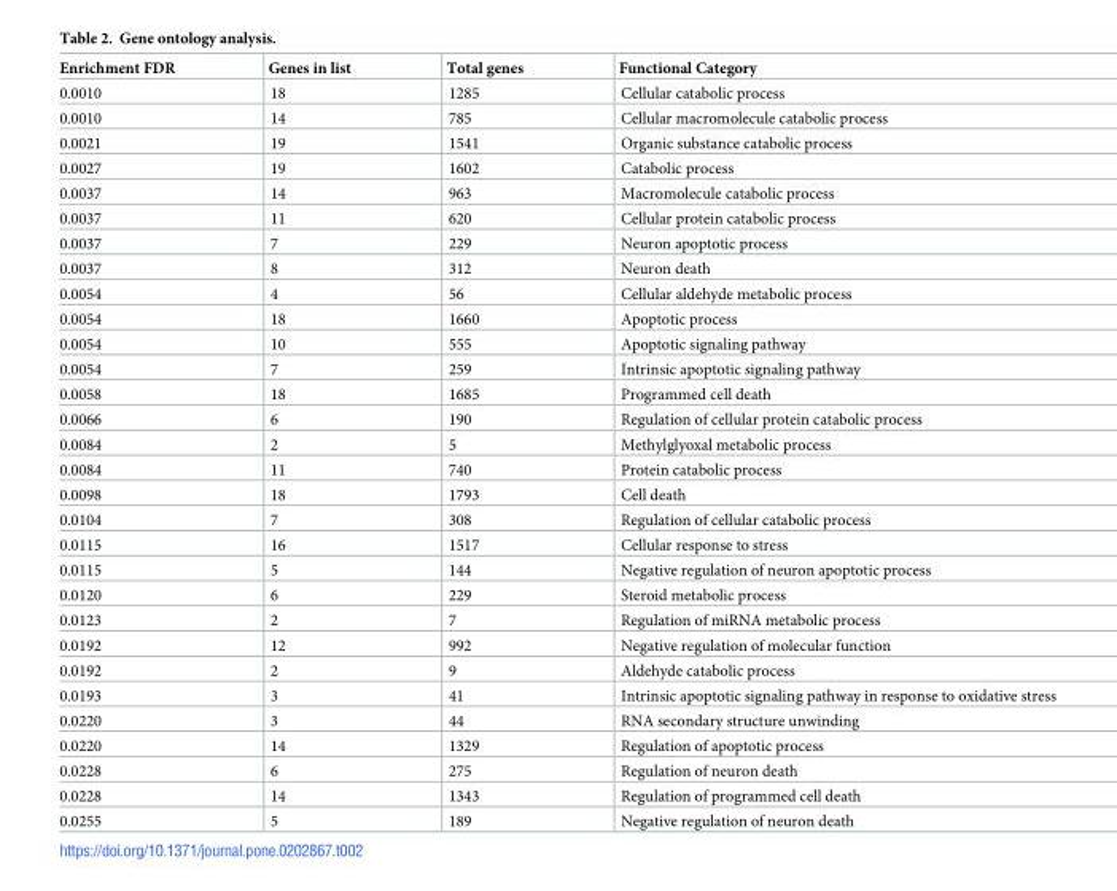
<table><thead><tr><td>Enrichment FDR</td><td>Genes in list</td><td>Total genes</td><td>Functional Category</td></tr></thead><tbody><tr><td>0.0010</td><td>18</td><td>1285</td><td>Cellular catabolic process</td></tr><tr><td>0.0010</td><td>14</td><td>785</td><td>Cellular macromolecule catabolic process</td></tr><tr><td>0.0021</td><td>19</td><td>1541</td><td>Organic substance catabolic process</td></tr><tr><td>0.0027</td><td>19</td><td>1602</td><td>Catabolic process</td></tr><tr><td>0.0037</td><td>14</td><td>963</td><td>Macromolecule catabolic process</td></tr><tr><td>0.0037</td><td>11</td><td>620</td><td>Cellular protein catabolic process</td></tr><tr><td>0.0037</td><td>7</td><td>229</td><td>Neuron apoptotic process</td></tr><tr><td>0.0037</td><td>8</td><td>312</td><td>Neuron death</td></tr><tr><td>0.0054</td><td>4</td><td>56</td><td>Cellular aldehyde metabolic process</td></tr><tr><td>0.0054</td><td>18</td><td>1660</td><td>Apoptotic process</td></tr><tr><td>0.0054</td><td>10</td><td>555</td><td>Apoptotic signaling pathway</td></tr><tr><td>0.0054</td><td>7</td><td>259</td><td>Intrinsic apoptotic signaling pathway</td></tr><tr><td>0.0058</td><td>18</td><td>1685</td><td>Programmed cell death</td></tr><tr><td>0.0066</td><td>6</td><td>190</td><td>Regulation of cellular protein catabolic process</td></tr><tr><td>0.0084</td><td>2</td><td>5</td><td>Methylglyoxal metabolic process</td></tr><tr><td>0.0084</td><td>11</td><td>740</td><td>Protein catabolic process</td></tr><tr><td>0.0098</td><td>18</td><td>1793</td><td>Cell death</td></tr><tr><td>0.0104</td><td>7</td><td>308</td><td>Regulation of cellular catabolic process</td></tr><tr><td>0.0115</td><td>16</td><td>1517</td><td>Cellular response to stress</td></tr><tr><td>0.0115</td><td>5</td><td>144</td><td>Negative regulation of neuron apoptotic process</td></tr><tr><td>0.0120</td><td>6</td><td>229</td><td>Steroid metabolic process</td></tr><tr><td>0.0123</td><td>2</td><td>7</td><td>Regulation of miRNA metabolic process</td></tr><tr><td>0.0192</td><td>12</td><td>992</td><td>Negative regulation of molecular function</td></tr><tr><td>0.0192</td><td>2</td><td>9</td><td>Aldehyde catabolic process</td></tr><tr><td>0.0193</td><td>3</td><td>41</td><td>Intrinsic apoptotic signaling pathway in response to oxidative stress</td></tr><tr><td>0.0220</td><td>3</td><td>44</td><td>RNA secondary structure unwinding</td></tr><tr><td>0.0220</td><td>14</td><td>1329</td><td>Regulation of apoptotic process</td></tr><tr><td>0.0228</td><td>6</td><td>275</td><td>Regulation of neuron death</td></tr><tr><td>0.0228</td><td>14</td><td>1343</td><td>Regulation of programmed cell death</td></tr><tr><td>0.0255</td><td>5</td><td>189</td><td>Negative regulation of neuron death</td></tr></tbody></table>